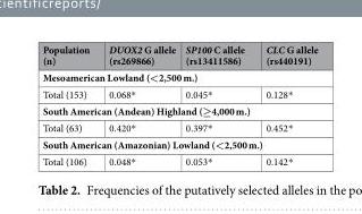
<table><thead><tr><td>Population (n)</td><td>DUOX2 G allele (rs269866)</td><td>SP100 C allele (rs13411586)</td><td>CLC G allele (rs440191)</td></tr></thead><tbody><tr><td colspan="4">Mesoamerican Lowland (&lt;2,500 m.)</td></tr><tr><td>Total (153)</td><td>0.068*</td><td>0.045*</td><td>0.128*</td></tr><tr><td colspan="4">South American (Andean) Highland (≥4,000 m.)</td></tr><tr><td>Total (63)</td><td>0.420*</td><td>0.397*</td><td>0.452*</td></tr><tr><td colspan="4">South American (Amazonian) Lowland (&lt;2,500 m.)</td></tr><tr><td>Total (106)</td><td>0.048*</td><td>0.053*</td><td>0.142*</td></tr></tbody></table>